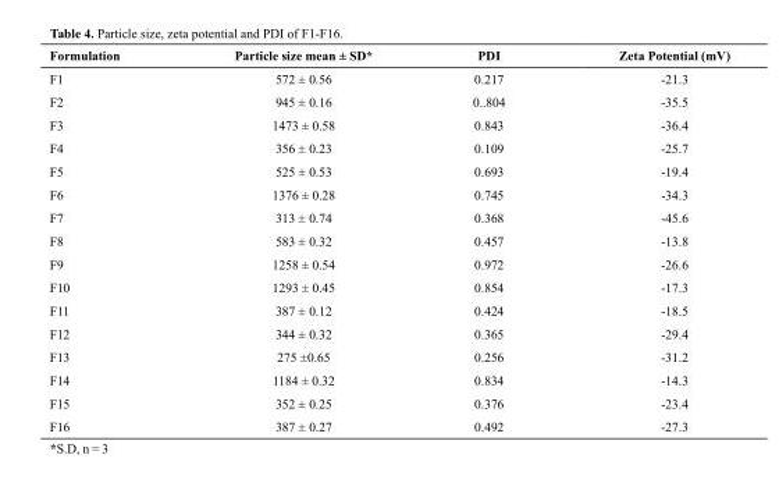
<table><thead><tr><td>Formulation</td><td>Particle size mean ± SD*</td><td>PDI</td><td>Zeta Potential (mV)</td></tr></thead><tbody><tr><td>F1</td><td>572 ± 0.56</td><td>0.217</td><td>-21.3</td></tr><tr><td>F2</td><td>945 ± 0.16</td><td>0..804</td><td>-35.5</td></tr><tr><td>F3</td><td>1473 ± 0.58</td><td>0.843</td><td>-36.4</td></tr><tr><td>F4</td><td>356 ± 0.23</td><td>0.109</td><td>-25.7</td></tr><tr><td>F5</td><td>525 ± 0.53</td><td>0.693</td><td>-19.4</td></tr><tr><td>F6</td><td>1376 ± 0.28</td><td>0.745</td><td>-34.3</td></tr><tr><td>F7</td><td>313 ± 0.74</td><td>0.368</td><td>-45.6</td></tr><tr><td>F8</td><td>583 ± 0.32</td><td>0.457</td><td>-13.8</td></tr><tr><td>F9</td><td>1258 ± 0.54</td><td>0.972</td><td>-26.6</td></tr><tr><td>F10</td><td>1293 ± 0.45</td><td>0.854</td><td>-17.3</td></tr><tr><td>F11</td><td>387 ± 0.12</td><td>0.424</td><td>-18.5</td></tr><tr><td>F12</td><td>344 ± 0.32</td><td>0.365</td><td>-29.4</td></tr><tr><td>F13</td><td>275 ±0.65</td><td>0.256</td><td>-31.2</td></tr><tr><td>F14</td><td>1184 ± 0.32</td><td>0.834</td><td>-14.3</td></tr><tr><td>F15</td><td>352 ± 0.25</td><td>0.376</td><td>-23.4</td></tr><tr><td>F16</td><td>387 ± 0.27</td><td>0.492</td><td>-27.3</td></tr></tbody></table>